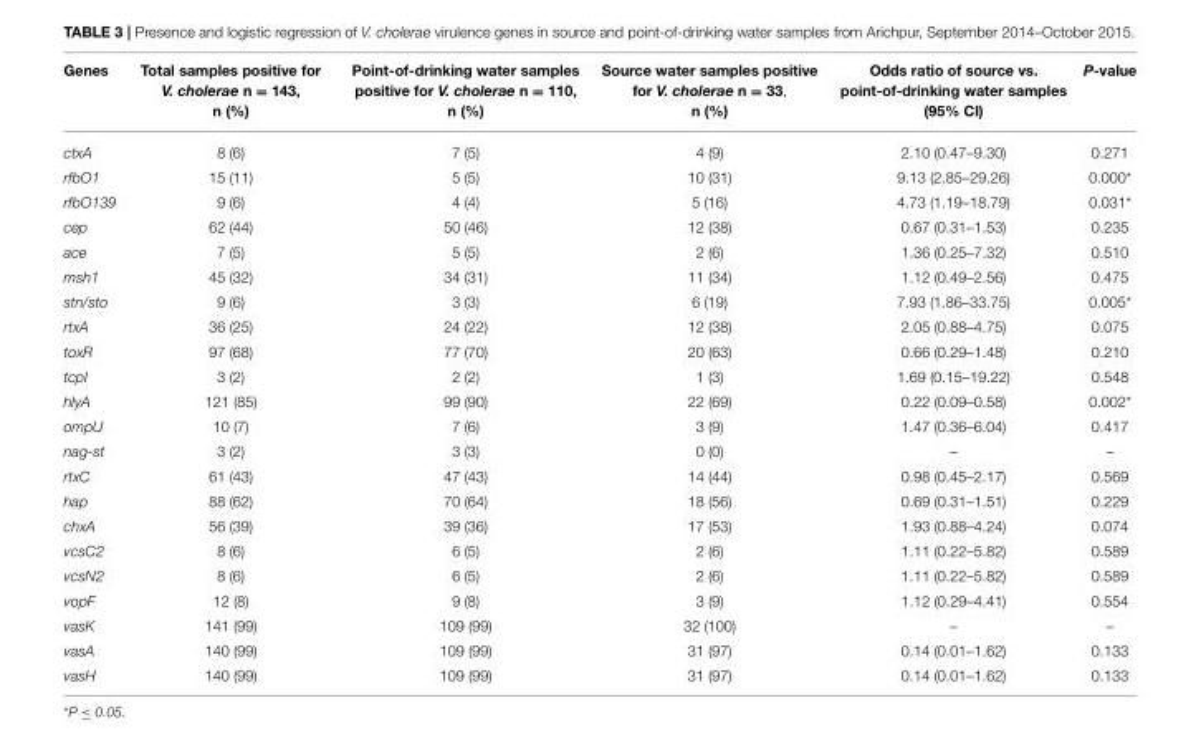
<table><thead><tr><td>Genes</td><td>Total samples positive for V. cholerae n = 143, n (%)</td><td>Point-of-drinking water samples positive for V. cholerae n = 110, n (%)</td><td>Source water samples positive for V. cholerae n = 33, n (%)</td><td>Odds ratio of source vs. point-of-drinking water samples (95% CI)</td><td>P-value</td></tr></thead><tbody><tr><td>ctxA</td><td>8 (6)</td><td>7 (5)</td><td>4 (9)</td><td>2.10 (0.47–9.30)</td><td>0.271</td></tr><tr><td>rfbO1</td><td>15 (11)</td><td>5 (5)</td><td>10 (31)</td><td>9.13 (2.85–29.26)</td><td>0.000*</td></tr><tr><td>rfbO139</td><td>9 (6)</td><td>4 (4)</td><td>5 (16)</td><td>4.73 (1.19–18.79)</td><td>0.031*</td></tr><tr><td>cep</td><td>62 (44)</td><td>50 (46)</td><td>12 (38)</td><td>0.67 (0.31–1.53)</td><td>0.235</td></tr><tr><td>ace</td><td>7 (5)</td><td>5 (5)</td><td>2 (6)</td><td>1.36 (0.25–7.32)</td><td>0.510</td></tr><tr><td>msh1</td><td>45 (32)</td><td>34 (31)</td><td>11 (34)</td><td>1.12 (0.49–2.56)</td><td>0.475</td></tr><tr><td>stn/sto</td><td>9 (6)</td><td>3 (3)</td><td>6 (19)</td><td>7.93 (1.86–33.75)</td><td>0.005*</td></tr><tr><td>rtxA</td><td>36 (25)</td><td>24 (22)</td><td>12 (38)</td><td>2.05 (0.88–4.75)</td><td>0.075</td></tr><tr><td>toxR</td><td>97 (68)</td><td>77 (70)</td><td>20 (63)</td><td>0.66 (0.29–1.48)</td><td>0.210</td></tr><tr><td>tcpI</td><td>3 (2)</td><td>2 (2)</td><td>1 (3)</td><td>1.69 (0.15–19.22)</td><td>0.548</td></tr><tr><td>hlyA</td><td>121 (85)</td><td>99 (90)</td><td>22 (69)</td><td>0.22 (0.09–0.58)</td><td>0.002*</td></tr><tr><td>ompU</td><td>10 (7)</td><td>7 (6)</td><td>3 (9)</td><td>1.47 (0.36–6.04)</td><td>0.417</td></tr><tr><td>nag-st</td><td>3 (2)</td><td>3 (3)</td><td>0 (0)</td><td>–</td><td>–</td></tr><tr><td>rtxC</td><td>61 (43)</td><td>47 (43)</td><td>14 (44)</td><td>0.98 (0.45–2.17)</td><td>0.569</td></tr><tr><td>hap</td><td>88 (62)</td><td>70 (64)</td><td>18 (56)</td><td>0.69 (0.31–1.51)</td><td>0.229</td></tr><tr><td>chxA</td><td>56 (39)</td><td>39 (36)</td><td>17 (53)</td><td>1.93 (0.88–4.24)</td><td>0.074</td></tr><tr><td>vcsC2</td><td>8 (6)</td><td>6 (5)</td><td>2 (6)</td><td>1.11 (0.22–5.82)</td><td>0.589</td></tr><tr><td>vcsN2</td><td>8 (6)</td><td>6 (5)</td><td>2 (6)</td><td>1.11 (0.22–5.82)</td><td>0.589</td></tr><tr><td>vopF</td><td>12 (8)</td><td>9 (8)</td><td>3 (9)</td><td>1.12 (0.29–4.41)</td><td>0.554</td></tr><tr><td>vasK</td><td>141 (99)</td><td>109 (99)</td><td>32 (100)</td><td>–</td><td>–</td></tr><tr><td>vasA</td><td>140 (99)</td><td>109 (99)</td><td>31 (97)</td><td>0.14 (0.01–1.62)</td><td>0.133</td></tr><tr><td>vasH</td><td>140 (99)</td><td>109 (99)</td><td>31 (97)</td><td>0.14 (0.01–1.62)</td><td>0.133</td></tr></tbody></table>